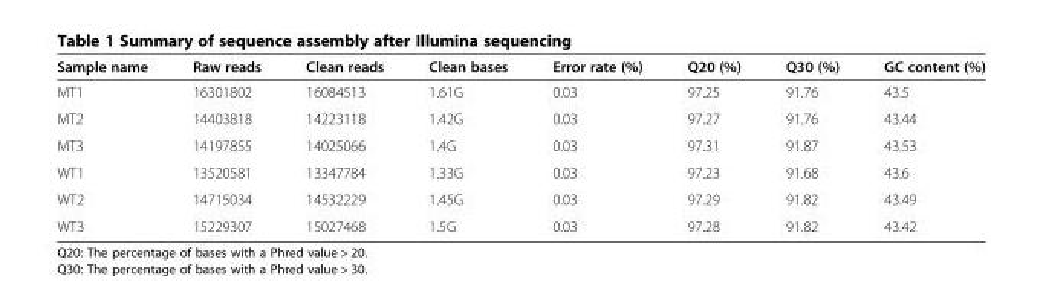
<table><thead><tr><td>Sample name</td><td>Raw reads</td><td>Clean reads</td><td>Clean bases</td><td>Error rate (%)</td><td>Q20 (%)</td><td>Q30 (%)</td><td>GC content (%)</td></tr></thead><tbody><tr><td>MT1</td><td>16301802</td><td>16084513</td><td>1.61G</td><td>0.03</td><td>97.25</td><td>91.76</td><td>43.5</td></tr><tr><td>MT2</td><td>14403818</td><td>14223118</td><td>1.42G</td><td>0.03</td><td>97.27</td><td>91.76</td><td>43.44</td></tr><tr><td>MT3</td><td>14197855</td><td>14025066</td><td>1.4G</td><td>0.03</td><td>97.31</td><td>91.87</td><td>43.53</td></tr><tr><td>WT1</td><td>13520581</td><td>13347784</td><td>1.33G</td><td>0.03</td><td>97.23</td><td>91.68</td><td>43.6</td></tr><tr><td>WT2</td><td>14715034</td><td>14532229</td><td>1.45G</td><td>0.03</td><td>97.29</td><td>91.82</td><td>43.49</td></tr><tr><td>WT3</td><td>15229307</td><td>15027468</td><td>1.5G</td><td>0.03</td><td>97.28</td><td>91.82</td><td>43.42</td></tr></tbody></table>